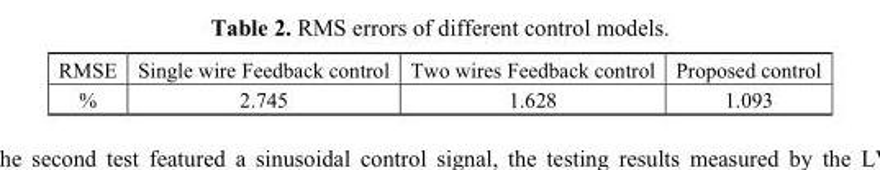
<table><thead><tr><td>RMSE</td><td>Single wire Feedback control</td><td>Two wires Feedback control</td><td>Proposed control</td></tr></thead><tbody><tr><td>%</td><td>2.745</td><td>1.628</td><td>1.093</td></tr></tbody></table>